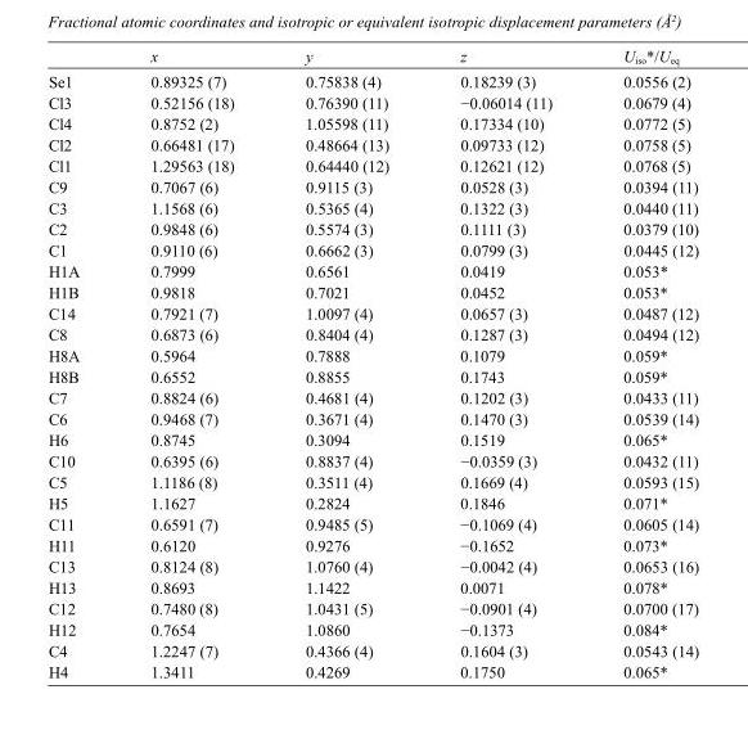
<table><thead><tr><td></td><td>x</td><td>y</td><td>z</td><td>U<sub>iso</sub>*/U<sub>eq</sub></td></tr></thead><tbody><tr><td>Se1</td><td>0.89325 (7)</td><td>0.75838 (4)</td><td>0.18239 (3)</td><td>0.0556 (2)</td></tr><tr><td>Cl3</td><td>0.52156 (18)</td><td>0.76390 (11)</td><td>−0.06014 (11)</td><td>0.0679 (4)</td></tr><tr><td>Cl4</td><td>0.8752 (2)</td><td>1.05598 (11)</td><td>0.17334 (10)</td><td>0.0772 (5)</td></tr><tr><td>Cl2</td><td>0.66481 (17)</td><td>0.48664 (13)</td><td>0.09733 (12)</td><td>0.0758 (5)</td></tr><tr><td>Cl1</td><td>1.29563 (18)</td><td>0.64440 (12)</td><td>0.12621 (12)</td><td>0.0768 (5)</td></tr><tr><td>C9</td><td>0.7067 (6)</td><td>0.9115 (3)</td><td>0.0528 (3)</td><td>0.0394 (11)</td></tr><tr><td>C3</td><td>1.1568 (6)</td><td>0.5365 (4)</td><td>0.1322 (3)</td><td>0.0440 (11)</td></tr><tr><td>C2</td><td>0.9848 (6)</td><td>0.5574 (3)</td><td>0.1111 (3)</td><td>0.0379 (10)</td></tr><tr><td>C1</td><td>0.9110 (6)</td><td>0.6662 (3)</td><td>0.0799 (3)</td><td>0.0445 (12)</td></tr><tr><td>H1A</td><td>0.7999</td><td>0.6561</td><td>0.0419</td><td>0.053*</td></tr><tr><td>H1B</td><td>0.9818</td><td>0.7021</td><td>0.0452</td><td>0.053*</td></tr><tr><td>C14</td><td>0.7921 (7)</td><td>1.0097 (4)</td><td>0.0657 (3)</td><td>0.0487 (12)</td></tr><tr><td>C8</td><td>0.6873 (6)</td><td>0.8404 (4)</td><td>0.1287 (3)</td><td>0.0494 (12)</td></tr><tr><td>H8A</td><td>0.5964</td><td>0.7888</td><td>0.1079</td><td>0.059*</td></tr><tr><td>H8B</td><td>0.6552</td><td>0.8855</td><td>0.1743</td><td>0.059*</td></tr><tr><td>C7</td><td>0.8824 (6)</td><td>0.4681 (4)</td><td>0.1202 (3)</td><td>0.0433 (11)</td></tr><tr><td>C6</td><td>0.9468 (7)</td><td>0.3671 (4)</td><td>0.1470 (3)</td><td>0.0539 (14)</td></tr><tr><td>H6</td><td>0.8745</td><td>0.3094</td><td>0.1519</td><td>0.065*</td></tr><tr><td>C10</td><td>0.6395 (6)</td><td>0.8837 (4)</td><td>−0.0359 (3)</td><td>0.0432 (11)</td></tr><tr><td>C5</td><td>1.1186 (8)</td><td>0.3511 (4)</td><td>0.1669 (4)</td><td>0.0593 (15)</td></tr><tr><td>H5</td><td>1.1627</td><td>0.2824</td><td>0.1846</td><td>0.071*</td></tr><tr><td>C11</td><td>0.6591 (7)</td><td>0.9485 (5)</td><td>−0.1069 (4)</td><td>0.0605 (14)</td></tr><tr><td>H11</td><td>0.6120</td><td>0.9276</td><td>−0.1652</td><td>0.073*</td></tr><tr><td>C13</td><td>0.8124 (8)</td><td>1.0760 (4)</td><td>−0.0042 (4)</td><td>0.0653 (16)</td></tr><tr><td>H13</td><td>0.8693</td><td>1.1422</td><td>0.0071</td><td>0.078*</td></tr><tr><td>C12</td><td>0.7480 (8)</td><td>1.0431 (5)</td><td>−0.0901 (4)</td><td>0.0700 (17)</td></tr><tr><td>H12</td><td>0.7654</td><td>1.0860</td><td>−0.1373</td><td>0.084*</td></tr><tr><td>C4</td><td>1.2247 (7)</td><td>0.4366 (4)</td><td>0.1604 (3)</td><td>0.0543 (14)</td></tr><tr><td>H4</td><td>1.3411</td><td>0.4269</td><td>0.1750</td><td>0.065*</td></tr></tbody></table>